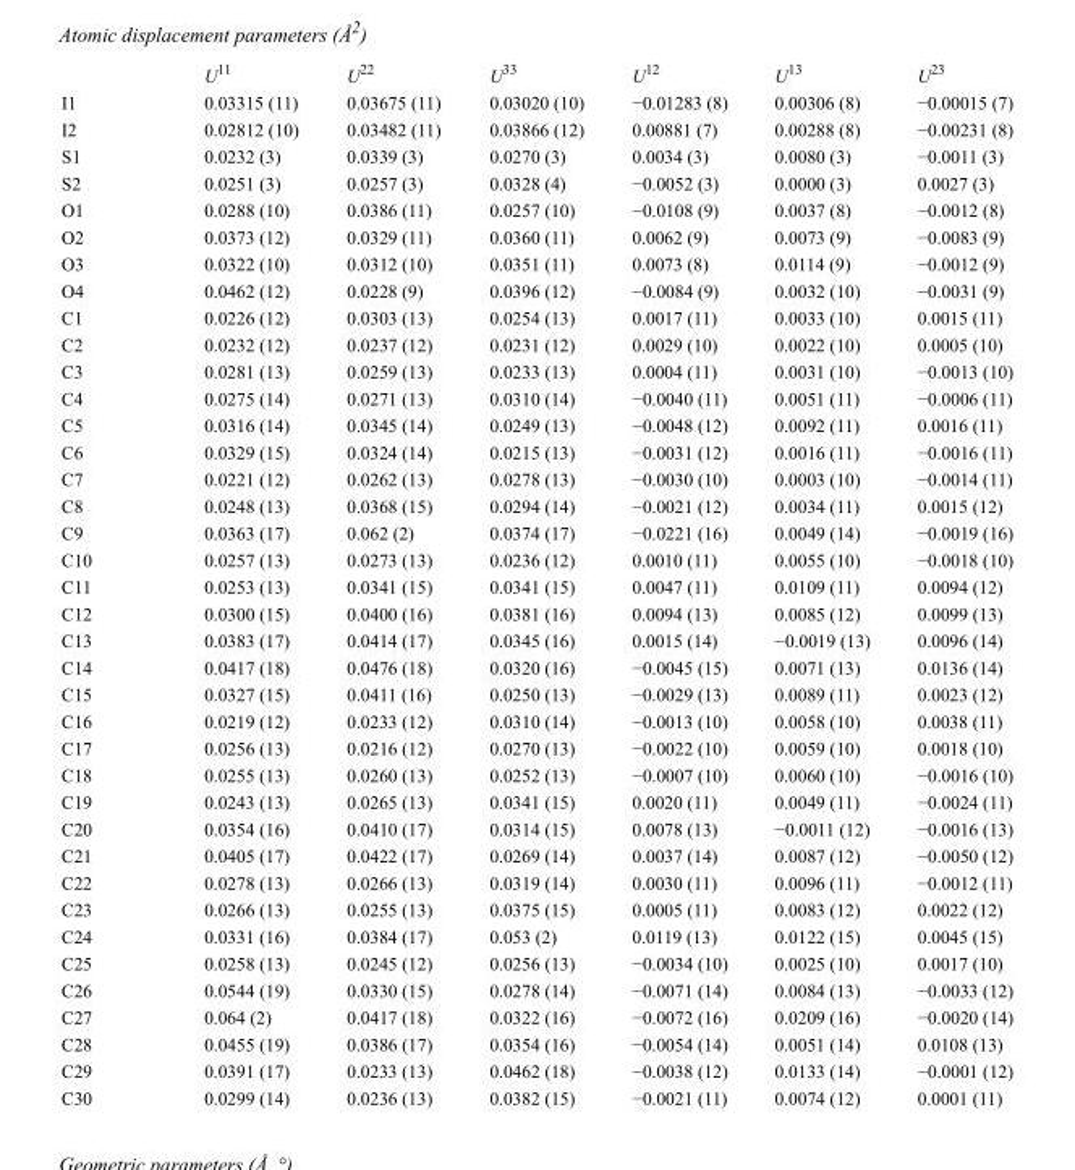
<table><thead><tr><td></td><td>U<sup>11</sup></td><td>U<sup>22</sup></td><td>U<sup>33</sup></td><td>U<sup>12</sup></td><td>U<sup>13</sup></td><td>U<sup>23</sup></td></tr></thead><tbody><tr><td>I1</td><td>0.03315 (11)</td><td>0.03675 (11)</td><td>0.03020 (10)</td><td>−0.01283 (8)</td><td>0.00306 (8)</td><td>−0.00015 (7)</td></tr><tr><td>I2</td><td>0.02812 (10)</td><td>0.03482 (11)</td><td>0.03866 (12)</td><td>0.00881 (7)</td><td>0.00288 (8)</td><td>−0.00231 (8)</td></tr><tr><td>S1</td><td>0.0232 (3)</td><td>0.0339 (3)</td><td>0.0270 (3)</td><td>0.0034 (3)</td><td>0.0080 (3)</td><td>−0.0011 (3)</td></tr><tr><td>S2</td><td>0.0251 (3)</td><td>0.0257 (3)</td><td>0.0328 (4)</td><td>−0.0052 (3)</td><td>0.0000 (3)</td><td>0.0027 (3)</td></tr><tr><td>O1</td><td>0.0288 (10)</td><td>0.0386 (11)</td><td>0.0257 (10)</td><td>−0.0108 (9)</td><td>0.0037 (8)</td><td>−0.0012 (8)</td></tr><tr><td>O2</td><td>0.0373 (12)</td><td>0.0329 (11)</td><td>0.0360 (11)</td><td>0.0062 (9)</td><td>0.0073 (9)</td><td>−0.0083 (9)</td></tr><tr><td>O3</td><td>0.0322 (10)</td><td>0.0312 (10)</td><td>0.0351 (11)</td><td>0.0073 (8)</td><td>0.0114 (9)</td><td>−0.0012 (9)</td></tr><tr><td>O4</td><td>0.0462 (12)</td><td>0.0228 (9)</td><td>0.0396 (12)</td><td>−0.0084 (9)</td><td>0.0032 (10)</td><td>−0.0031 (9)</td></tr><tr><td>C1</td><td>0.0226 (12)</td><td>0.0303 (13)</td><td>0.0254 (13)</td><td>0.0017 (11)</td><td>0.0033 (10)</td><td>0.0015 (11)</td></tr><tr><td>C2</td><td>0.0232 (12)</td><td>0.0237 (12)</td><td>0.0231 (12)</td><td>0.0029 (10)</td><td>0.0022 (10)</td><td>0.0005 (10)</td></tr><tr><td>C3</td><td>0.0281 (13)</td><td>0.0259 (13)</td><td>0.0233 (13)</td><td>0.0004 (11)</td><td>0.0031 (10)</td><td>−0.0013 (10)</td></tr><tr><td>C4</td><td>0.0275 (14)</td><td>0.0271 (13)</td><td>0.0310 (14)</td><td>−0.0040 (11)</td><td>0.0051 (11)</td><td>−0.0006 (11)</td></tr><tr><td>C5</td><td>0.0316 (14)</td><td>0.0345 (14)</td><td>0.0249 (13)</td><td>−0.0048 (12)</td><td>0.0092 (11)</td><td>0.0016 (11)</td></tr><tr><td>C6</td><td>0.0329 (15)</td><td>0.0324 (14)</td><td>0.0215 (13)</td><td>−0.0031 (12)</td><td>0.0016 (11)</td><td>−0.0016 (11)</td></tr><tr><td>C7</td><td>0.0221 (12)</td><td>0.0262 (13)</td><td>0.0278 (13)</td><td>−0.0030 (10)</td><td>0.0003 (10)</td><td>−0.0014 (11)</td></tr><tr><td>C8</td><td>0.0248 (13)</td><td>0.0368 (15)</td><td>0.0294 (14)</td><td>−0.0021 (12)</td><td>0.0034 (11)</td><td>0.0015 (12)</td></tr><tr><td>C9</td><td>0.0363 (17)</td><td>0.062 (2)</td><td>0.0374 (17)</td><td>−0.0221 (16)</td><td>0.0049 (14)</td><td>−0.0019 (16)</td></tr><tr><td>C10</td><td>0.0257 (13)</td><td>0.0273 (13)</td><td>0.0236 (12)</td><td>0.0010 (11)</td><td>0.0055 (10)</td><td>−0.0018 (10)</td></tr><tr><td>C11</td><td>0.0253 (13)</td><td>0.0341 (15)</td><td>0.0341 (15)</td><td>0.0047 (11)</td><td>0.0109 (11)</td><td>0.0094 (12)</td></tr><tr><td>C12</td><td>0.0300 (15)</td><td>0.0400 (16)</td><td>0.0381 (16)</td><td>0.0094 (13)</td><td>0.0085 (12)</td><td>0.0099 (13)</td></tr><tr><td>C13</td><td>0.0383 (17)</td><td>0.0414 (17)</td><td>0.0345 (16)</td><td>0.0015 (14)</td><td>−0.0019 (13)</td><td>0.0096 (14)</td></tr><tr><td>C14</td><td>0.0417 (18)</td><td>0.0476 (18)</td><td>0.0320 (16)</td><td>−0.0045 (15)</td><td>0.0071 (13)</td><td>0.0136 (14)</td></tr><tr><td>C15</td><td>0.0327 (15)</td><td>0.0411 (16)</td><td>0.0250 (13)</td><td>−0.0029 (13)</td><td>0.0089 (11)</td><td>0.0023 (12)</td></tr><tr><td>C16</td><td>0.0219 (12)</td><td>0.0233 (12)</td><td>0.0310 (14)</td><td>−0.0013 (10)</td><td>0.0058 (10)</td><td>0.0038 (11)</td></tr><tr><td>C17</td><td>0.0256 (13)</td><td>0.0216 (12)</td><td>0.0270 (13)</td><td>−0.0022 (10)</td><td>0.0059 (10)</td><td>0.0018 (10)</td></tr><tr><td>C18</td><td>0.0255 (13)</td><td>0.0260 (13)</td><td>0.0252 (13)</td><td>−0.0007 (10)</td><td>0.0060 (10)</td><td>−0.0016 (10)</td></tr><tr><td>C19</td><td>0.0243 (13)</td><td>0.0265 (13)</td><td>0.0341 (15)</td><td>0.0020 (11)</td><td>0.0049 (11)</td><td>−0.0024 (11)</td></tr><tr><td>C20</td><td>0.0354 (16)</td><td>0.0410 (17)</td><td>0.0314 (15)</td><td>0.0078 (13)</td><td>−0.0011 (12)</td><td>−0.0016 (13)</td></tr><tr><td>C21</td><td>0.0405 (17)</td><td>0.0422 (17)</td><td>0.0269 (14)</td><td>0.0037 (14)</td><td>0.0087 (12)</td><td>−0.0050 (12)</td></tr><tr><td>C22</td><td>0.0278 (13)</td><td>0.0266 (13)</td><td>0.0319 (14)</td><td>0.0030 (11)</td><td>0.0096 (11)</td><td>−0.0012 (11)</td></tr><tr><td>C23</td><td>0.0266 (13)</td><td>0.0255 (13)</td><td>0.0375 (15)</td><td>0.0005 (11)</td><td>0.0083 (12)</td><td>0.0022 (12)</td></tr><tr><td>C24</td><td>0.0331 (16)</td><td>0.0384 (17)</td><td>0.053 (2)</td><td>0.0119 (13)</td><td>0.0122 (15)</td><td>0.0045 (15)</td></tr><tr><td>C25</td><td>0.0258 (13)</td><td>0.0245 (12)</td><td>0.0256 (13)</td><td>−0.0034 (10)</td><td>0.0025 (10)</td><td>0.0017 (10)</td></tr><tr><td>C26</td><td>0.0544 (19)</td><td>0.0330 (15)</td><td>0.0278 (14)</td><td>−0.0071 (14)</td><td>0.0084 (13)</td><td>−0.0033 (12)</td></tr><tr><td>C27</td><td>0.064 (2)</td><td>0.0417 (18)</td><td>0.0322 (16)</td><td>−0.0072 (16)</td><td>0.0209 (16)</td><td>−0.0020 (14)</td></tr><tr><td>C28</td><td>0.0455 (19)</td><td>0.0386 (17)</td><td>0.0354 (16)</td><td>−0.0054 (14)</td><td>0.0051 (14)</td><td>0.0108 (13)</td></tr><tr><td>C29</td><td>0.0391 (17)</td><td>0.0233 (13)</td><td>0.0462 (18)</td><td>−0.0038 (12)</td><td>0.0133 (14)</td><td>−0.0001 (12)</td></tr><tr><td>C30</td><td>0.0299 (14)</td><td>0.0236 (13)</td><td>0.0382 (15)</td><td>−0.0021 (11)</td><td>0.0074 (12)</td><td>0.0001 (11)</td></tr></tbody></table>